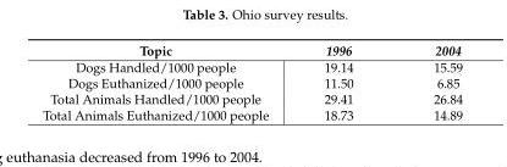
<table><thead><tr><td>Topic</td><td>1996</td><td>2004</td></tr></thead><tbody><tr><td>Dogs Handled/1000 people</td><td>19.14</td><td>15.59</td></tr><tr><td>Dogs Euthanized/1000 people</td><td>11.50</td><td>6.85</td></tr><tr><td>Total Animals Handled/1000 people</td><td>29.41</td><td>26.84</td></tr><tr><td>Total Animals Euthanized/1000 people</td><td>18.73</td><td>14.89</td></tr></tbody></table>